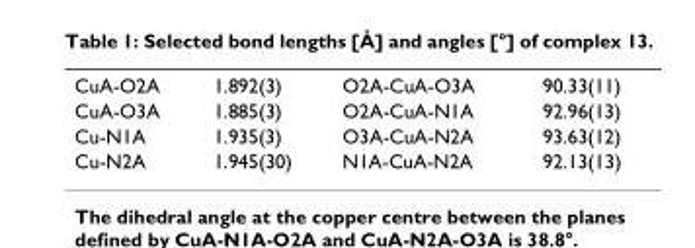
<table><tbody><tr><td>CuA-O2A</td><td>1.892(3)</td><td>O2A-CuA-O3A</td><td>90.33(11)</td></tr><tr><td>CuA-O3A</td><td>1.885(3)</td><td>O2A-CuA-N1A</td><td>92.96(13)</td></tr><tr><td>Cu-N1A</td><td>1.935(3)</td><td>O3A-CuA-N2A</td><td>93.63(12)</td></tr><tr><td>Cu-N2A</td><td>1.945(30)</td><td>N1A-CuA-N2A</td><td>92.13(13)</td></tr></tbody></table>